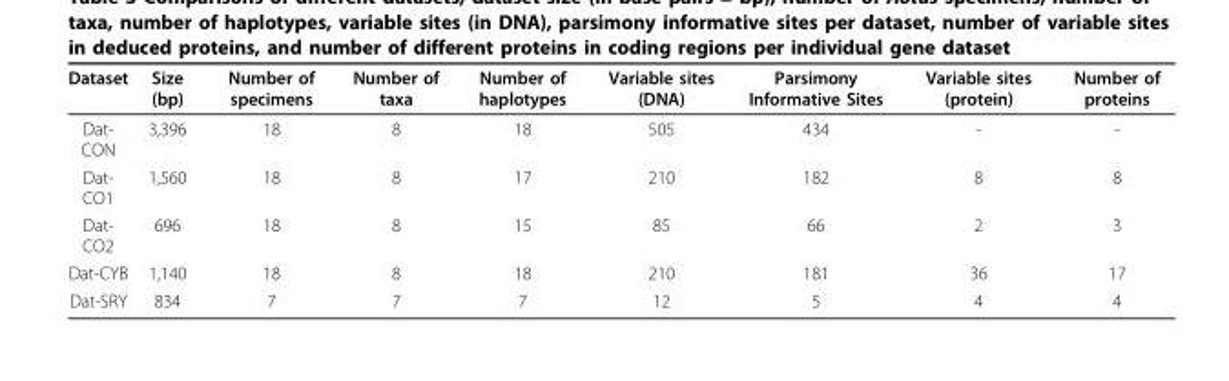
<table><thead><tr><td>Dataset</td><td>Size (bp)</td><td>Number of specimens</td><td>Number of taxa</td><td>Number of haplotypes</td><td>Variable sites (DNA)</td><td>Parsimony Informative Sites</td><td>Variable sites (protein)</td><td>Number of proteins</td></tr></thead><tbody><tr><td>Dat- CON</td><td>3,396</td><td>18</td><td>8</td><td>18</td><td>505</td><td>434</td><td>-</td><td>-</td></tr><tr><td>Dat- CO1</td><td>1,560</td><td>18</td><td>8</td><td>17</td><td>210</td><td>182</td><td>8</td><td>8</td></tr><tr><td>Dat- CO2</td><td>696</td><td>18</td><td>8</td><td>15</td><td>85</td><td>66</td><td>2</td><td>3</td></tr><tr><td>Dat-CYB</td><td>1,140</td><td>18</td><td>8</td><td>18</td><td>210</td><td>181</td><td>36</td><td>17</td></tr><tr><td>Dat-SRY</td><td>834</td><td>7</td><td>7</td><td>7</td><td>12</td><td>5</td><td>4</td><td>4</td></tr></tbody></table>